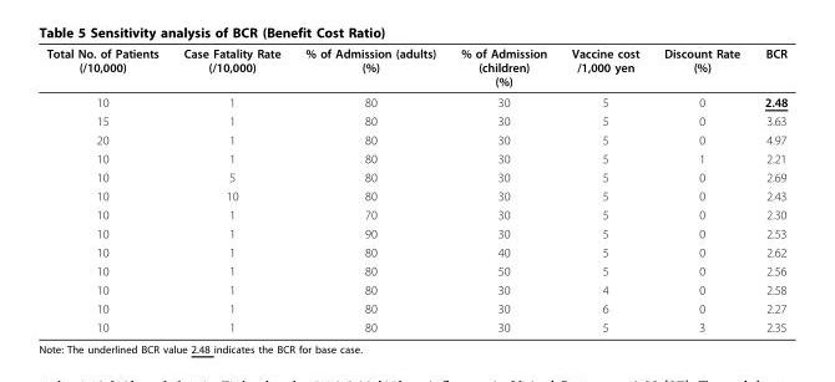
<table><thead><tr><td>Total No. of Patients (/10,000)</td><td>Case Fatality Rate (/10,000)</td><td>% of Admission (adults) (%)</td><td>% of Admission (children) (%)</td><td>Vaccine cost /1,000 yen</td><td>Discount Rate (%)</td><td>BCR</td></tr></thead><tbody><tr><td>10</td><td>1</td><td>80</td><td>30</td><td>5</td><td>0</td><td>2.48</td></tr><tr><td>15</td><td>1</td><td>80</td><td>30</td><td>5</td><td>0</td><td>3.63</td></tr><tr><td>20</td><td>1</td><td>80</td><td>30</td><td>5</td><td>0</td><td>4.97</td></tr><tr><td>10</td><td>1</td><td>80</td><td>30</td><td>5</td><td>1</td><td>2.21</td></tr><tr><td>10</td><td>5</td><td>80</td><td>30</td><td>5</td><td>0</td><td>2.69</td></tr><tr><td>10</td><td>10</td><td>80</td><td>30</td><td>5</td><td>0</td><td>2.43</td></tr><tr><td>10</td><td>1</td><td>70</td><td>30</td><td>5</td><td>0</td><td>2.30</td></tr><tr><td>10</td><td>1</td><td>90</td><td>30</td><td>5</td><td>0</td><td>2.53</td></tr><tr><td>10</td><td>1</td><td>80</td><td>40</td><td>5</td><td>0</td><td>2.62</td></tr><tr><td>10</td><td>1</td><td>80</td><td>50</td><td>5</td><td>0</td><td>2.56</td></tr><tr><td>10</td><td>1</td><td>80</td><td>30</td><td>4</td><td>0</td><td>2.58</td></tr><tr><td>10</td><td>1</td><td>80</td><td>30</td><td>6</td><td>0</td><td>2.27</td></tr><tr><td>10</td><td>1</td><td>80</td><td>30</td><td>5</td><td>3</td><td>2.35</td></tr></tbody></table>